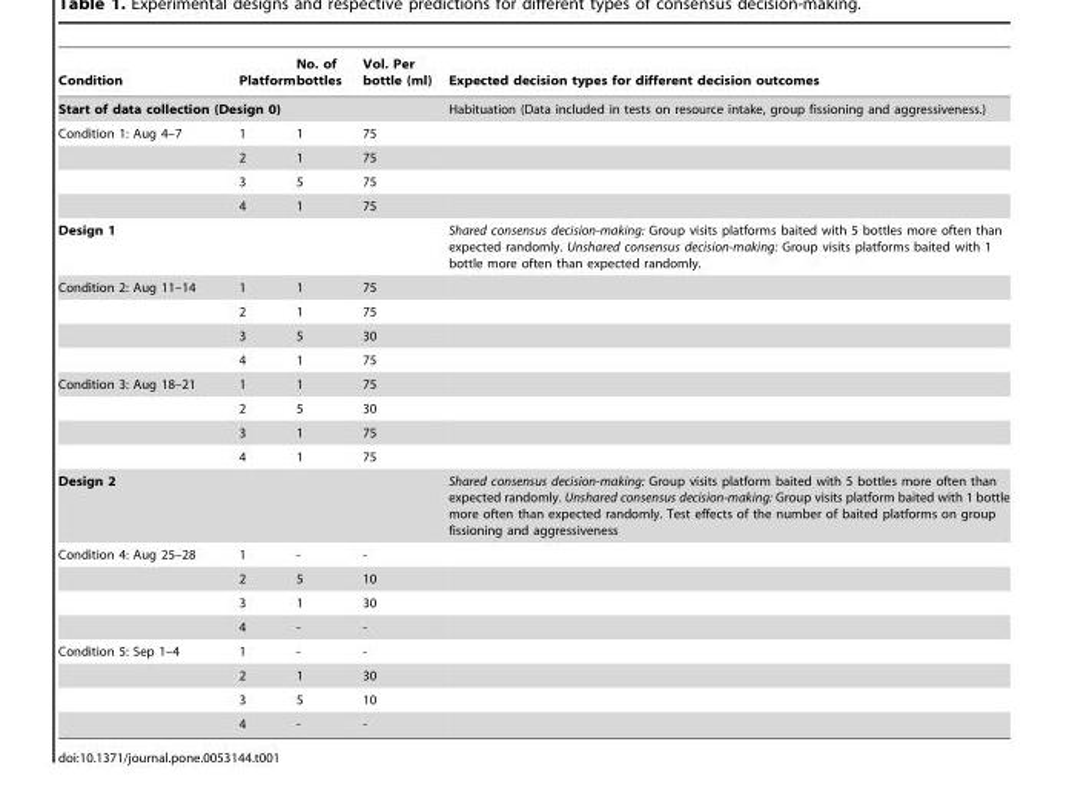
<table><thead><tr><td>Condition</td><td>Platform</td><td>No. of bottles</td><td>Vol. Per bottle (ml)</td><td>Expected decision types for different decision outcomes</td></tr></thead><tbody><tr><td colspan="4">Start of data collection (Design 0)</td><td>Habituation (Data included in tests on resource intake, group fissioning and aggressiveness.)</td></tr><tr><td rowspan="4">Condition 1: Aug 4–7</td><td>1</td><td>1</td><td>75</td><td></td></tr><tr><td>2</td><td>1</td><td>75</td><td></td></tr><tr><td>3</td><td>5</td><td>75</td><td></td></tr><tr><td>4</td><td>1</td><td>75</td><td></td></tr><tr><td colspan="4">Design 1</td><td>Shared consensus decision-making: Group visits platforms baited with 5 bottles more often than expected randomly. Unshared consensus decision-making: Group visits platforms baited with 1 bottle more often than expected randomly.</td></tr><tr><td rowspan="4">Condition 2: Aug 11–14</td><td>1</td><td>1</td><td>75</td><td></td></tr><tr><td>2</td><td>1</td><td>75</td><td></td></tr><tr><td>3</td><td>5</td><td>30</td><td></td></tr><tr><td>4</td><td>1</td><td>75</td><td></td></tr><tr><td rowspan="4">Condition 3: Aug 18–21</td><td>1</td><td>1</td><td>75</td><td></td></tr><tr><td>2</td><td>5</td><td>30</td><td></td></tr><tr><td>3</td><td>1</td><td>75</td><td></td></tr><tr><td>4</td><td>1</td><td>75</td><td></td></tr><tr><td colspan="4">Design 2</td><td>Shared consensus decision-making: Group visits platform baited with 5 bottles more often than expected randomly. Unshared consensus decision-making: Group visits platform baited with 1 bottle more often than expected randomly. Test effects of the number of baited platforms on group fissioning and aggressiveness</td></tr><tr><td rowspan="4">Condition 4: Aug 25–28</td><td>1</td><td>-</td><td>-</td><td></td></tr><tr><td>2</td><td>5</td><td>10</td><td></td></tr><tr><td>3</td><td>1</td><td>30</td><td></td></tr><tr><td>4</td><td>-</td><td>-</td><td></td></tr><tr><td rowspan="4">Condition 5: Sep 1–4</td><td>1</td><td>-</td><td>-</td><td></td></tr><tr><td>2</td><td>1</td><td>30</td><td></td></tr><tr><td>3</td><td>5</td><td>10</td><td></td></tr><tr><td>4</td><td>-</td><td>-</td><td></td></tr></tbody></table>